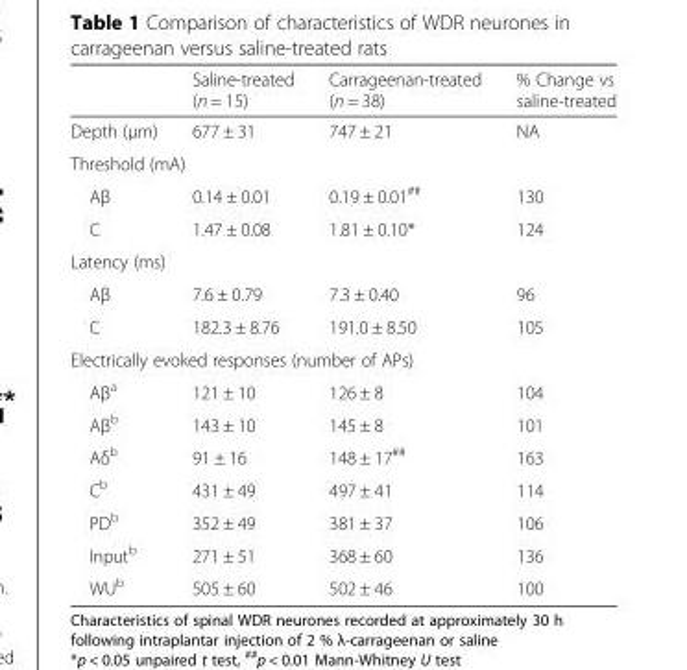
<table><thead><tr><td></td><td>Saline-treated (n = 15)</td><td>Carrageenan-treated (n = 38)</td><td>% Change vs saline-treated</td></tr></thead><tbody><tr><td>Depth (μm)</td><td>677 ± 31</td><td>747 ± 21</td><td>NA</td></tr><tr><td colspan="4">Threshold (mA)</td></tr><tr><td>Aβ</td><td>0.14 ± 0.01</td><td>0.19 ± 0.01<sup>##</sup></td><td>130</td></tr><tr><td>C</td><td>1.47 ± 0.08</td><td>1.81 ± 0.10*</td><td>124</td></tr><tr><td colspan="4">Latency (ms)</td></tr><tr><td>Aβ</td><td>7.6 ± 0.79</td><td>7.3 ± 0.40</td><td>96</td></tr><tr><td>C</td><td>182.3 ± 8.76</td><td>191.0 ± 8.50</td><td>105</td></tr><tr><td colspan="4">Electrically evoked responses (number of APs)</td></tr><tr><td>Aβ<sup>a</sup></td><td>121 ± 10</td><td>126 ± 8</td><td>104</td></tr><tr><td>Aβ<sup>b</sup></td><td>143 ± 10</td><td>145 ± 8</td><td>101</td></tr><tr><td>Aδ<sup>b</sup></td><td>91 ± 16</td><td>148 ± 17<sup>##</sup></td><td>163</td></tr><tr><td>C<sup>b</sup></td><td>431 ± 49</td><td>497 ± 41</td><td>114</td></tr><tr><td>PD<sup>b</sup></td><td>352 ± 49</td><td>381 ± 37</td><td>106</td></tr><tr><td>Input<sup>b</sup></td><td>271 ± 51</td><td>368 ± 60</td><td>136</td></tr><tr><td>WU<sup>b</sup></td><td>505 ± 60</td><td>502 ± 46</td><td>100</td></tr></tbody></table>